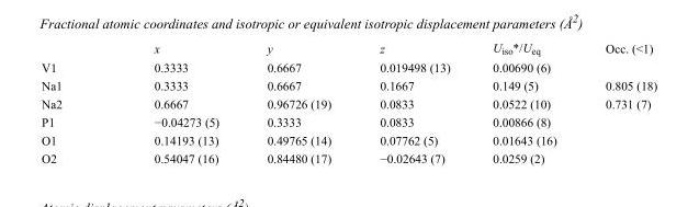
<table><thead><tr><td></td><td>x</td><td>y</td><td>z</td><td>U<sub>iso</sub>*/U<sub>eq</sub></td><td>Occ. (&lt;1)</td></tr></thead><tbody><tr><td>V1</td><td>0.3333</td><td>0.6667</td><td>0.019498 (13)</td><td>0.00690 (6)</td><td></td></tr><tr><td>Na1</td><td>0.3333</td><td>0.6667</td><td>0.1667</td><td>0.149 (5)</td><td>0.805 (18)</td></tr><tr><td>Na2</td><td>0.6667</td><td>0.96726 (19)</td><td>0.0833</td><td>0.0522 (10)</td><td>0.731 (7)</td></tr><tr><td>P1</td><td>−0.04273 (5)</td><td>0.3333</td><td>0.0833</td><td>0.00866 (8)</td><td></td></tr><tr><td>O1</td><td>0.14193 (13)</td><td>0.49765 (14)</td><td>0.07762 (5)</td><td>0.01643 (16)</td><td></td></tr><tr><td>O2</td><td>0.54047 (16)</td><td>0.84480 (17)</td><td>−0.02643 (7)</td><td>0.0259 (2)</td><td></td></tr></tbody></table>